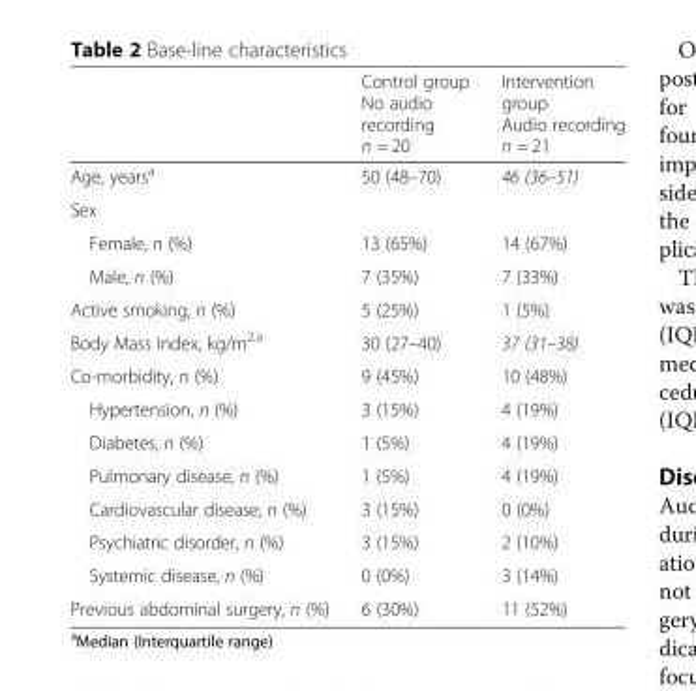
<table><thead><tr><td></td><td>Control group No audio recording n = 20</td><td>Intervention group Audio recording n = 21</td></tr></thead><tbody><tr><td>Age, years<sup>a</sup></td><td>50 (48–70)</td><td>46 (36–51)</td></tr><tr><td colspan="3">Sex</td></tr><tr><td>Female, n (%)</td><td>13 (65%)</td><td>14 (67%)</td></tr><tr><td>Male, n (%)</td><td>7 (35%)</td><td>7 (33%)</td></tr><tr><td>Active smoking, n (%)</td><td>5 (25%)</td><td>1 (5%)</td></tr><tr><td>Body Mass Index, kg/m<sup>2,a</sup></td><td>30 (27–40)</td><td>37 (31–38)</td></tr><tr><td>Co-morbidity, n (%)</td><td>9 (45%)</td><td>10 (48%)</td></tr><tr><td>Hypertension, n (%)</td><td>3 (15%)</td><td>4 (19%)</td></tr><tr><td>Diabetes, n (%)</td><td>1 (5%)</td><td>4 (19%)</td></tr><tr><td>Pulmonary disease, n (%)</td><td>1 (5%)</td><td>4 (19%)</td></tr><tr><td>Cardiovascular disease, n (%)</td><td>3 (15%)</td><td>0 (0%)</td></tr><tr><td>Psychiatric disorder, n (%)</td><td>3 (15%)</td><td>2 (10%)</td></tr><tr><td>Systemic disease, n (%)</td><td>0 (0%)</td><td>3 (14%)</td></tr><tr><td>Previous abdominal surgery, n (%)</td><td>6 (30%)</td><td>11 (52%)</td></tr></tbody></table>